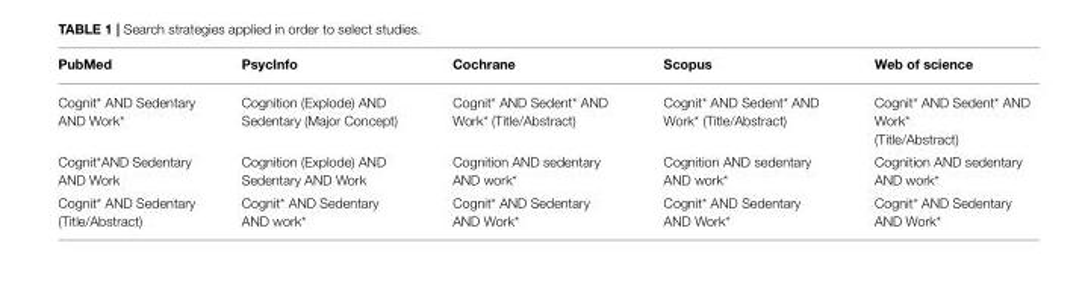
<table><thead><tr><td>PubMed</td><td>PsycInfo</td><td>Cochrane</td><td>Scopus</td><td>Web of science</td></tr></thead><tbody><tr><td>Cognit* AND Sedentary AND Work*</td><td>Cognition (Explode) AND Sedentary (Major Concept)</td><td>Cognit* AND Sedent* AND Work* (Title/Abstract)</td><td>Cognit* AND Sedent* AND Work* (Title/Abstract)</td><td>Cognit* AND Sedent* AND Work* (Title/Abstract)</td></tr><tr><td>Cognit*AND Sedentary AND Work</td><td>Cognition (Explode) AND Sedentary AND Work</td><td>Cognition AND sedentary AND work*</td><td>Cognition AND sedentary AND work*</td><td>Cognition AND sedentary AND work*</td></tr><tr><td>Cognit* AND Sedentary (Title/Abstract)</td><td>Cognit* AND Sedentary AND work*</td><td>Cognit* AND Sedentary AND Work*</td><td>Cognit* AND Sedentary AND Work*</td><td>Cognit* AND Sedentary AND Work*</td></tr></tbody></table>